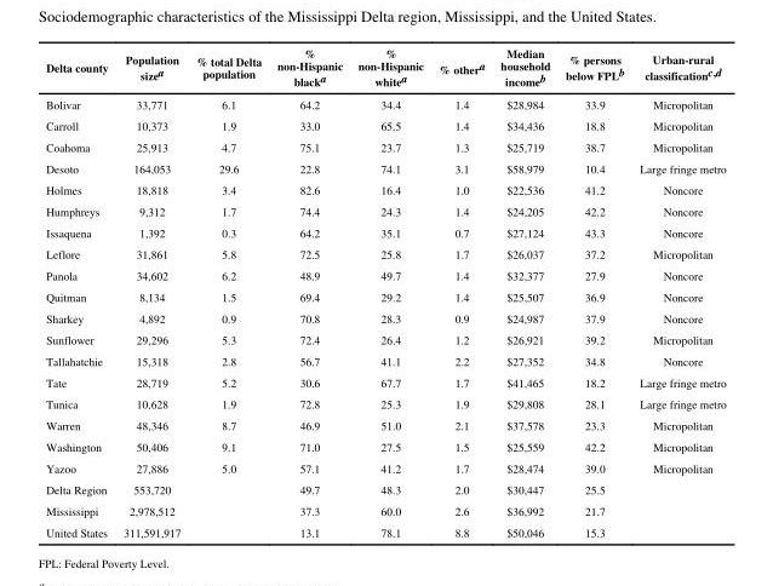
<table><thead><tr><td>Delta county</td><td>Population size<sup>a</sup></td><td>% total Delta population</td><td>% non-Hispanic black<sup>a</sup></td><td>% non-Hispanic white<sup>a</sup></td><td>% other<sup>a</sup></td><td>Median household income<sup>b</sup></td><td>% persons below FPL<sup>b</sup></td><td>Urban-rural classification<sup>c</sup>,<sup>d</sup></td></tr></thead><tbody><tr><td>Bolivar</td><td>33,771</td><td>6.1</td><td>64.2</td><td>34.4</td><td>1.4</td><td>$28,984</td><td>33.9</td><td>Micropolitan</td></tr><tr><td>Carroll</td><td>10,373</td><td>1.9</td><td>33.0</td><td>65.5</td><td>1.4</td><td>$34,436</td><td>18.8</td><td>Micropolitan</td></tr><tr><td>Coahoma</td><td>25,913</td><td>4.7</td><td>75.1</td><td>23.7</td><td>1.3</td><td>$25,719</td><td>38.7</td><td>Micropolitan</td></tr><tr><td>Desoto</td><td>164,053</td><td>29.6</td><td>22.8</td><td>74.1</td><td>3.1</td><td>$58,979</td><td>10.4</td><td>Large fringe metro</td></tr><tr><td>Holmes</td><td>18,818</td><td>3.4</td><td>82.6</td><td>16.4</td><td>1.0</td><td>$22,536</td><td>41.2</td><td>Noncore</td></tr><tr><td>Humphreys</td><td>9,312</td><td>1.7</td><td>74.4</td><td>24.3</td><td>1.4</td><td>$24,205</td><td>42.2</td><td>Noncore</td></tr><tr><td>Issaquena</td><td>1,392</td><td>0.3</td><td>64.2</td><td>35.1</td><td>0.7</td><td>$27,124</td><td>43.3</td><td>Noncore</td></tr><tr><td>Leflore</td><td>31,861</td><td>5.8</td><td>72.5</td><td>25.8</td><td>1.7</td><td>$26,037</td><td>37.2</td><td>Micropolitan</td></tr><tr><td>Panola</td><td>34,602</td><td>6.2</td><td>48.9</td><td>49.7</td><td>1.4</td><td>$32,377</td><td>27.9</td><td>Noncore</td></tr><tr><td>Quitman</td><td>8,134</td><td>1.5</td><td>69.4</td><td>29.2</td><td>1.4</td><td>$25,507</td><td>36.9</td><td>Noncore</td></tr><tr><td>Sharkey</td><td>4,892</td><td>0.9</td><td>70.8</td><td>28.3</td><td>0.9</td><td>$24,987</td><td>37.9</td><td>Noncore</td></tr><tr><td>Sunflower</td><td>29,296</td><td>5.3</td><td>72.4</td><td>26.4</td><td>1.2</td><td>$26,921</td><td>39.2</td><td>Micropolitan</td></tr><tr><td>Tallahatchie</td><td>15,318</td><td>2.8</td><td>56.7</td><td>41.1</td><td>2.2</td><td>$27,352</td><td>34.8</td><td>Noncore</td></tr><tr><td>Tate</td><td>28,719</td><td>5.2</td><td>30.6</td><td>67.7</td><td>1.7</td><td>$41,465</td><td>18.2</td><td>Large fringe metro</td></tr><tr><td>Tunica</td><td>10,628</td><td>1.9</td><td>72.8</td><td>25.3</td><td>1.9</td><td>$29,808</td><td>28.1</td><td>Large fringe metro</td></tr><tr><td>Warren</td><td>48,346</td><td>8.7</td><td>46.9</td><td>51.0</td><td>2.1</td><td>$37,578</td><td>23.3</td><td>Micropolitan</td></tr><tr><td>Washington</td><td>50,406</td><td>9.1</td><td>71.0</td><td>27.5</td><td>1.5</td><td>$25,559</td><td>42.2</td><td>Micropolitan</td></tr><tr><td>Yazoo</td><td>27,886</td><td>5.0</td><td>57.1</td><td>41.2</td><td>1.7</td><td>$28,474</td><td>39.0</td><td>Micropolitan</td></tr><tr><td>Delta Region</td><td>553,720</td><td></td><td>49.7</td><td>48.3</td><td>2.0</td><td>$30,447</td><td>25.5</td><td></td></tr><tr><td>Mississippi</td><td>2,978,512</td><td></td><td>37.3</td><td>60.0</td><td>2.6</td><td>$36,992</td><td>21.7</td><td></td></tr><tr><td>United States</td><td>311,591,917</td><td></td><td>13.1</td><td>78.1</td><td>8.8</td><td>$50,046</td><td>15.3</td><td></td></tr></tbody></table>